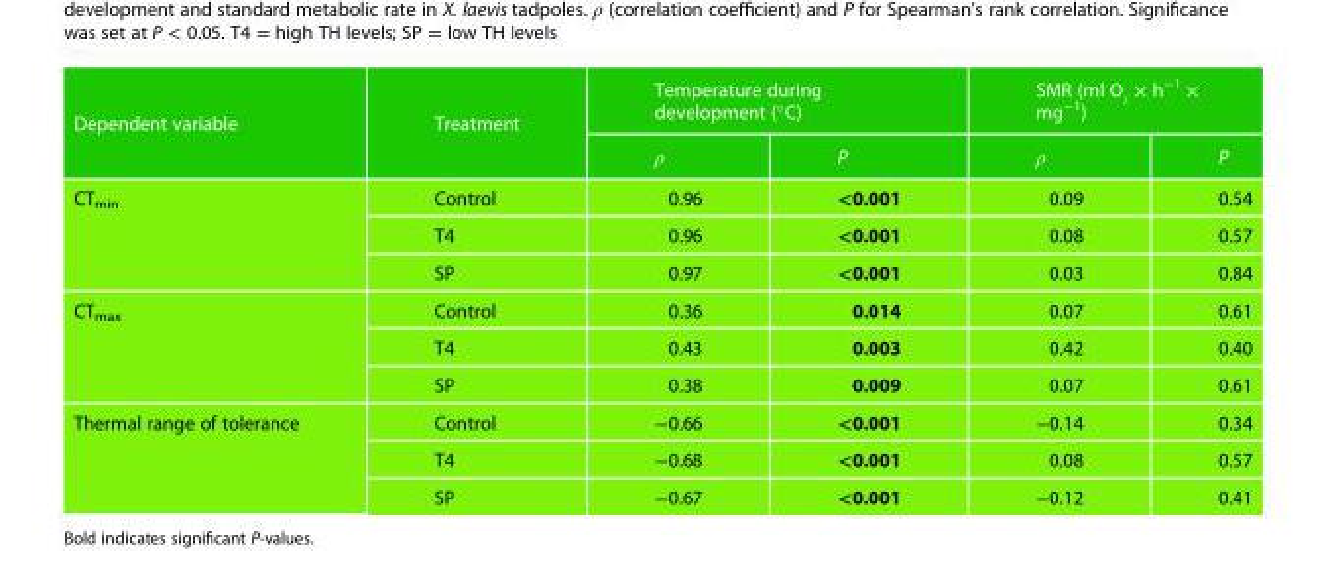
<table><thead><tr><td rowspan="2">Dependent variable</td><td rowspan="2">Treatment</td><td colspan="2">Temperature during development (°C)</td><td colspan="2">SMR (ml O2 × h−1 × mg−1)</td></tr><tr><td>ρ</td><td>P</td><td>ρ</td><td>P</td></tr></thead><tbody><tr><td rowspan="3">CT<sub>min</sub></td><td>Control</td><td>0.96</td><td>&lt;0.001</td><td>0.09</td><td>0.54</td></tr><tr><td>T4</td><td>0.96</td><td>&lt;0.001</td><td>0.08</td><td>0.57</td></tr><tr><td>SP</td><td>0.97</td><td>&lt;0.001</td><td>0.03</td><td>0.84</td></tr><tr><td rowspan="3">CT<sub>max</sub></td><td>Control</td><td>0.36</td><td>0.014</td><td>0.07</td><td>0.61</td></tr><tr><td>T4</td><td>0.43</td><td>0.003</td><td>0.42</td><td>0.40</td></tr><tr><td>SP</td><td>0.38</td><td>0.009</td><td>0.07</td><td>0.61</td></tr><tr><td rowspan="3">Thermal range of tolerance</td><td>Control</td><td>−0.66</td><td>&lt;0.001</td><td>−0.14</td><td>0.34</td></tr><tr><td>T4</td><td>−0.68</td><td>&lt;0.001</td><td>0.08</td><td>0.57</td></tr><tr><td>SP</td><td>−0.67</td><td>&lt;0.001</td><td>−0.12</td><td>0.41</td></tr></tbody></table>